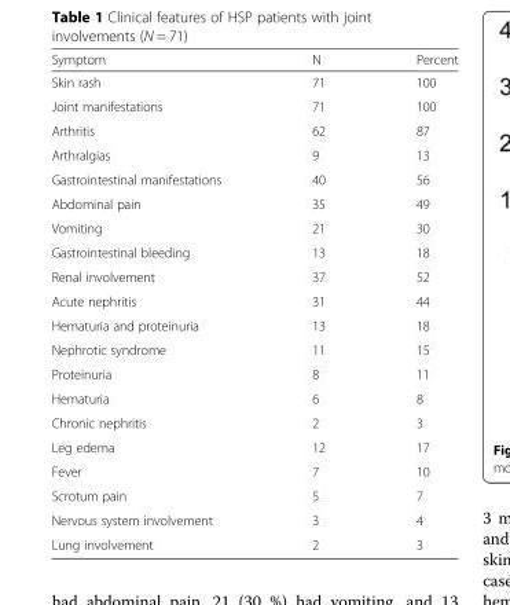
<table><thead><tr><td>Symptom</td><td>N</td><td>Percent</td></tr></thead><tbody><tr><td>Skin rash</td><td>71</td><td>100</td></tr><tr><td>Joint manifestations</td><td>71</td><td>100</td></tr><tr><td>Arthritis</td><td>62</td><td>87</td></tr><tr><td>Arthralgias</td><td>9</td><td>13</td></tr><tr><td>Gastrointestinal manifestations</td><td>40</td><td>56</td></tr><tr><td>Abdominal pain</td><td>35</td><td>49</td></tr><tr><td>Vomiting</td><td>21</td><td>30</td></tr><tr><td>Gastrointestinal bleeding</td><td>13</td><td>18</td></tr><tr><td>Renal involvement</td><td>37</td><td>52</td></tr><tr><td>Acute nephritis</td><td>31</td><td>44</td></tr><tr><td>Hematuria and proteinuria</td><td>13</td><td>18</td></tr><tr><td>Nephrotic syndrome</td><td>11</td><td>15</td></tr><tr><td>Proteinuria</td><td>8</td><td>11</td></tr><tr><td>Hematuria</td><td>6</td><td>8</td></tr><tr><td>Chronic nephritis</td><td>2</td><td>3</td></tr><tr><td>Leg edema</td><td>12</td><td>17</td></tr><tr><td>Fever</td><td>7</td><td>10</td></tr><tr><td>Scrotum pain</td><td>5</td><td>7</td></tr><tr><td>Nervous system involvement</td><td>3</td><td>4</td></tr><tr><td>Lung involvement</td><td>2</td><td>3</td></tr></tbody></table>